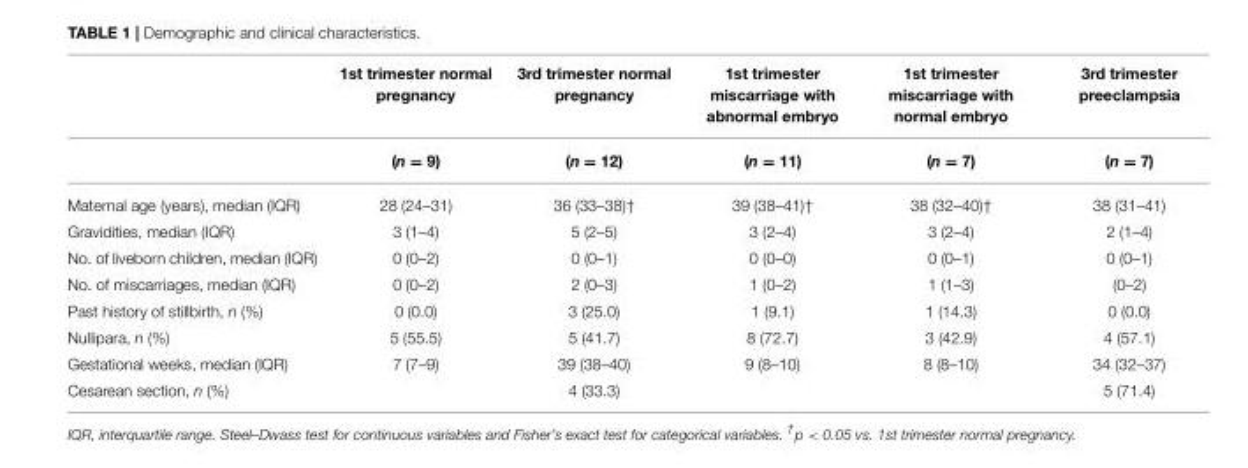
<table><thead><tr><td></td><td>1st trimester normal pregnancy</td><td>3rd trimester normal pregnancy</td><td>1st trimester miscarriage with abnormal embryo</td><td>1st trimester miscarriage with normal embryo</td><td>3rd trimester preeclampsia</td></tr></thead><tbody><tr><td></td><td>(n = 9)</td><td>(n = 12)</td><td>(n = 11)</td><td>(n = 7)</td><td>(n = 7)</td></tr><tr><td>Maternal age (years), median (IQR)</td><td>28 (24–31)</td><td>36 (33–38)<sup>†</sup></td><td>39 (38–41)<sup>†</sup></td><td>38 (32–40)<sup>†</sup></td><td>38 (31–41)</td></tr><tr><td>Gravidities, median (IQR)</td><td>3 (1–4)</td><td>5 (2–5)</td><td>3 (2–4)</td><td>3 (2–4)</td><td>2 (1–4)</td></tr><tr><td>No. of liveborn children, median (IQR)</td><td>0 (0–2)</td><td>0 (0–1)</td><td>0 (0–0)</td><td>0 (0–1)</td><td>0 (0–1)</td></tr><tr><td>No. of miscarriages, median (IQR)</td><td>0 (0–2)</td><td>2 (0–3)</td><td>1 (0–2)</td><td>1 (1–3)</td><td>(0–2)</td></tr><tr><td>Past history of stillbirth, n (%)</td><td>0 (0.0)</td><td>3 (25.0)</td><td>1 (9.1)</td><td>1 (14.3)</td><td>0 (0.0)</td></tr><tr><td>Nullipara, n (%)</td><td>5 (55.5)</td><td>5 (41.7)</td><td>8 (72.7)</td><td>3 (42.9)</td><td>4 (57.1)</td></tr><tr><td>Gestational weeks, median (IQR)</td><td>7 (7–9)</td><td>39 (38–40)</td><td>9 (8–10)</td><td>8 (8–10)</td><td>34 (32–37)</td></tr><tr><td>Cesarean section, n (%)</td><td></td><td>4 (33.3)</td><td></td><td></td><td>5 (71.4)</td></tr></tbody></table>